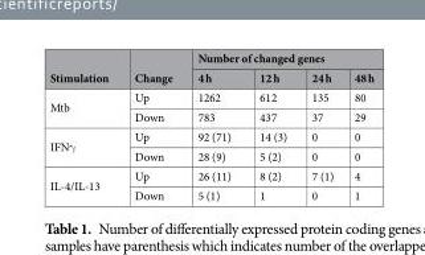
<table><thead><tr><td rowspan="2">Stimulation</td><td rowspan="2">Change</td><td colspan="4">Number of changed genes</td></tr><tr><td>4 h</td><td>12 h</td><td>24 h</td><td>48 h</td></tr></thead><tbody><tr><td rowspan="2">Mtb</td><td>Up</td><td>1262</td><td>612</td><td>135</td><td>80</td></tr><tr><td>Down</td><td>783</td><td>437</td><td>37</td><td>29</td></tr><tr><td rowspan="2">IFNγ</td><td>Up</td><td>92 (71)</td><td>14 (3)</td><td>0</td><td>0</td></tr><tr><td>Down</td><td>28 (9)</td><td>5 (2)</td><td>0</td><td>0</td></tr><tr><td rowspan="2">IL-4/IL-13</td><td>Up</td><td>26 (11)</td><td>8 (2)</td><td>7 (1)</td><td>4</td></tr><tr><td>Down</td><td>5 (1)</td><td>1</td><td>0</td><td>1</td></tr></tbody></table>